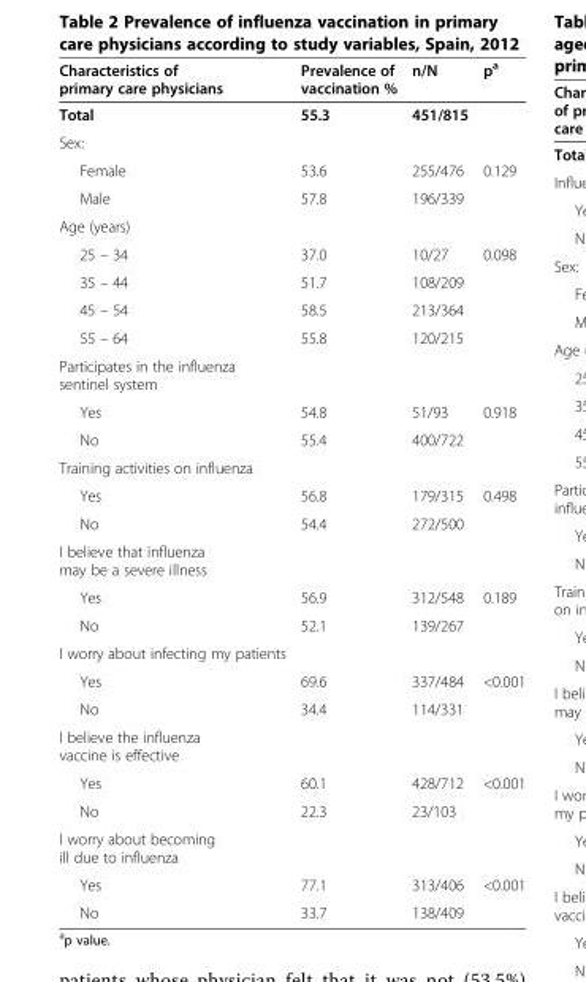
<table><thead><tr><td>Characteristics of primary care physicians</td><td>Prevalence of vaccination %</td><td>n/N</td><td>p<sup>a</sup></td></tr></thead><tbody><tr><td>Total</td><td>55.3</td><td>451/815</td><td></td></tr><tr><td colspan="4">Sex:</td></tr><tr><td>Female</td><td>53.6</td><td>255/476</td><td>0.129</td></tr><tr><td>Male</td><td>57.8</td><td>196/339</td><td></td></tr><tr><td colspan="4">Age (years)</td></tr><tr><td>25 – 34</td><td>37.0</td><td>10/27</td><td>0.098</td></tr><tr><td>35 – 44</td><td>51.7</td><td>108/209</td><td></td></tr><tr><td>45 – 54</td><td>58.5</td><td>213/364</td><td></td></tr><tr><td>55 – 64</td><td>55.8</td><td>120/215</td><td></td></tr><tr><td colspan="4">Participates in the influenza sentinel system</td></tr><tr><td>Yes</td><td>54.8</td><td>51/93</td><td>0.918</td></tr><tr><td>No</td><td>55.4</td><td>400/722</td><td></td></tr><tr><td colspan="4">Training activities on influenza</td></tr><tr><td>Yes</td><td>56.8</td><td>179/315</td><td>0.498</td></tr><tr><td>No</td><td>54.4</td><td>272/500</td><td></td></tr><tr><td colspan="4">I believe that influenza may be a severe illness</td></tr><tr><td>Yes</td><td>56.9</td><td>312/548</td><td>0.189</td></tr><tr><td>No</td><td>52.1</td><td>139/267</td><td></td></tr><tr><td colspan="4">I worry about infecting my patients</td></tr><tr><td>Yes</td><td>69.6</td><td>337/484</td><td>&lt;0.001</td></tr><tr><td>No</td><td>34.4</td><td>114/331</td><td></td></tr><tr><td colspan="4">I believe the influenza vaccine is effective</td></tr><tr><td>Yes</td><td>60.1</td><td>428/712</td><td>&lt;0.001</td></tr><tr><td>No</td><td>22.3</td><td>23/103</td><td></td></tr><tr><td colspan="4">I worry about becoming ill due to influenza</td></tr><tr><td>Yes</td><td>77.1</td><td>313/406</td><td>&lt;0.001</td></tr><tr><td>No</td><td>33.7</td><td>138/409</td><td></td></tr></tbody></table>